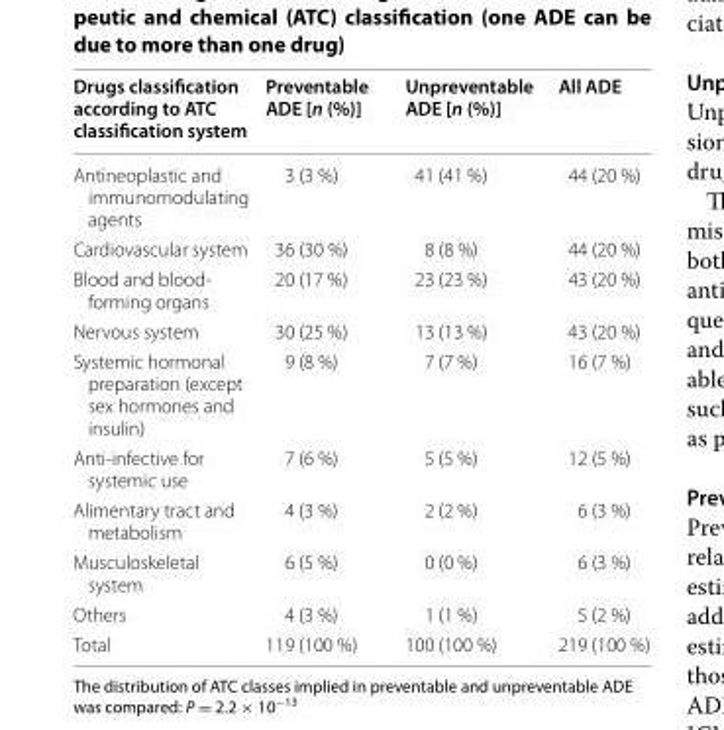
<table><thead><tr><td>Drugs classification according to ATC classification system</td><td>Preventable ADE [n (%)]</td><td>Unpreventable ADE [n (%)]</td><td>All ADE</td></tr></thead><tbody><tr><td>Antineoplastic and immunomodulating agents</td><td>3 (3 %)</td><td>41 (41 %)</td><td>44 (20 %)</td></tr><tr><td>Cardiovascular system</td><td>36 (30 %)</td><td>8 (8 %)</td><td>44 (20 %)</td></tr><tr><td>Blood and blood‑ forming organs</td><td>20 (17 %)</td><td>23 (23 %)</td><td>43 (20 %)</td></tr><tr><td>Nervous system</td><td>30 (25 %)</td><td>13 (13 %)</td><td>43 (20 %)</td></tr><tr><td>Systemic hormonal preparation (except sex hormones and insulin)</td><td>9 (8 %)</td><td>7 (7 %)</td><td>16 (7 %)</td></tr><tr><td>Anti‑infective for systemic use</td><td>7 (6 %)</td><td>5 (5 %)</td><td>12 (5 %)</td></tr><tr><td>Alimentary tract and metabolism</td><td>4 (3 %)</td><td>2 (2 %)</td><td>6 (3 %)</td></tr><tr><td>Musculoskeletal system</td><td>6 (5 %)</td><td>0 (0 %)</td><td>6 (3 %)</td></tr><tr><td>Others</td><td>4 (3 %)</td><td>1 (1 %)</td><td>5 (2 %)</td></tr><tr><td>Total</td><td>119 (100 %)</td><td>100 (100 %)</td><td>219 (100 %)</td></tr></tbody></table>